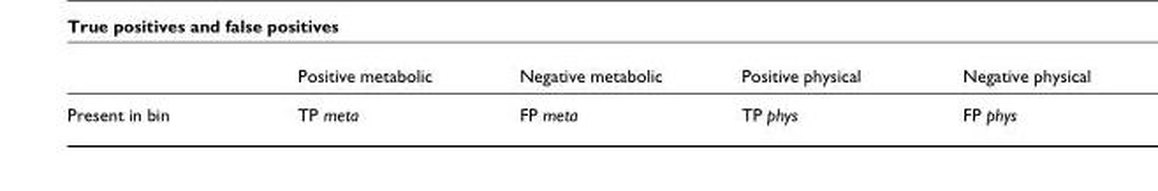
<table><thead><tr><td></td><td>Positive metabolic</td><td>Negative metabolic</td><td>Positive physical</td><td>Negative physical</td></tr></thead><tbody><tr><td>Present in bin</td><td>TP meta</td><td>FP meta</td><td>TP phys</td><td>FP phys</td></tr></tbody></table>